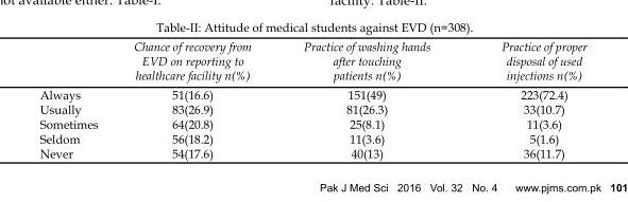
<table><thead><tr><td></td><td>Chance of recovery from EVD on reporting to healthcare facility n(%)</td><td>Practice of washing hands after touching patients n(%)</td><td>Practice of proper disposal of used injections n(%)</td></tr></thead><tbody><tr><td>Always</td><td>51(16.6)</td><td>151(49)</td><td>223(72.4)</td></tr><tr><td>Usually</td><td>83(26.9)</td><td>81(26.3)</td><td>33(10.7)</td></tr><tr><td>Sometimes</td><td>64(20.8)</td><td>25(8.1)</td><td>11(3.6)</td></tr><tr><td>Seldom</td><td>56(18.2)</td><td>11(3.6)</td><td>5(1.6)</td></tr><tr><td>Never</td><td>54(17.6)</td><td>40(13)</td><td>36(11.7)</td></tr></tbody></table>